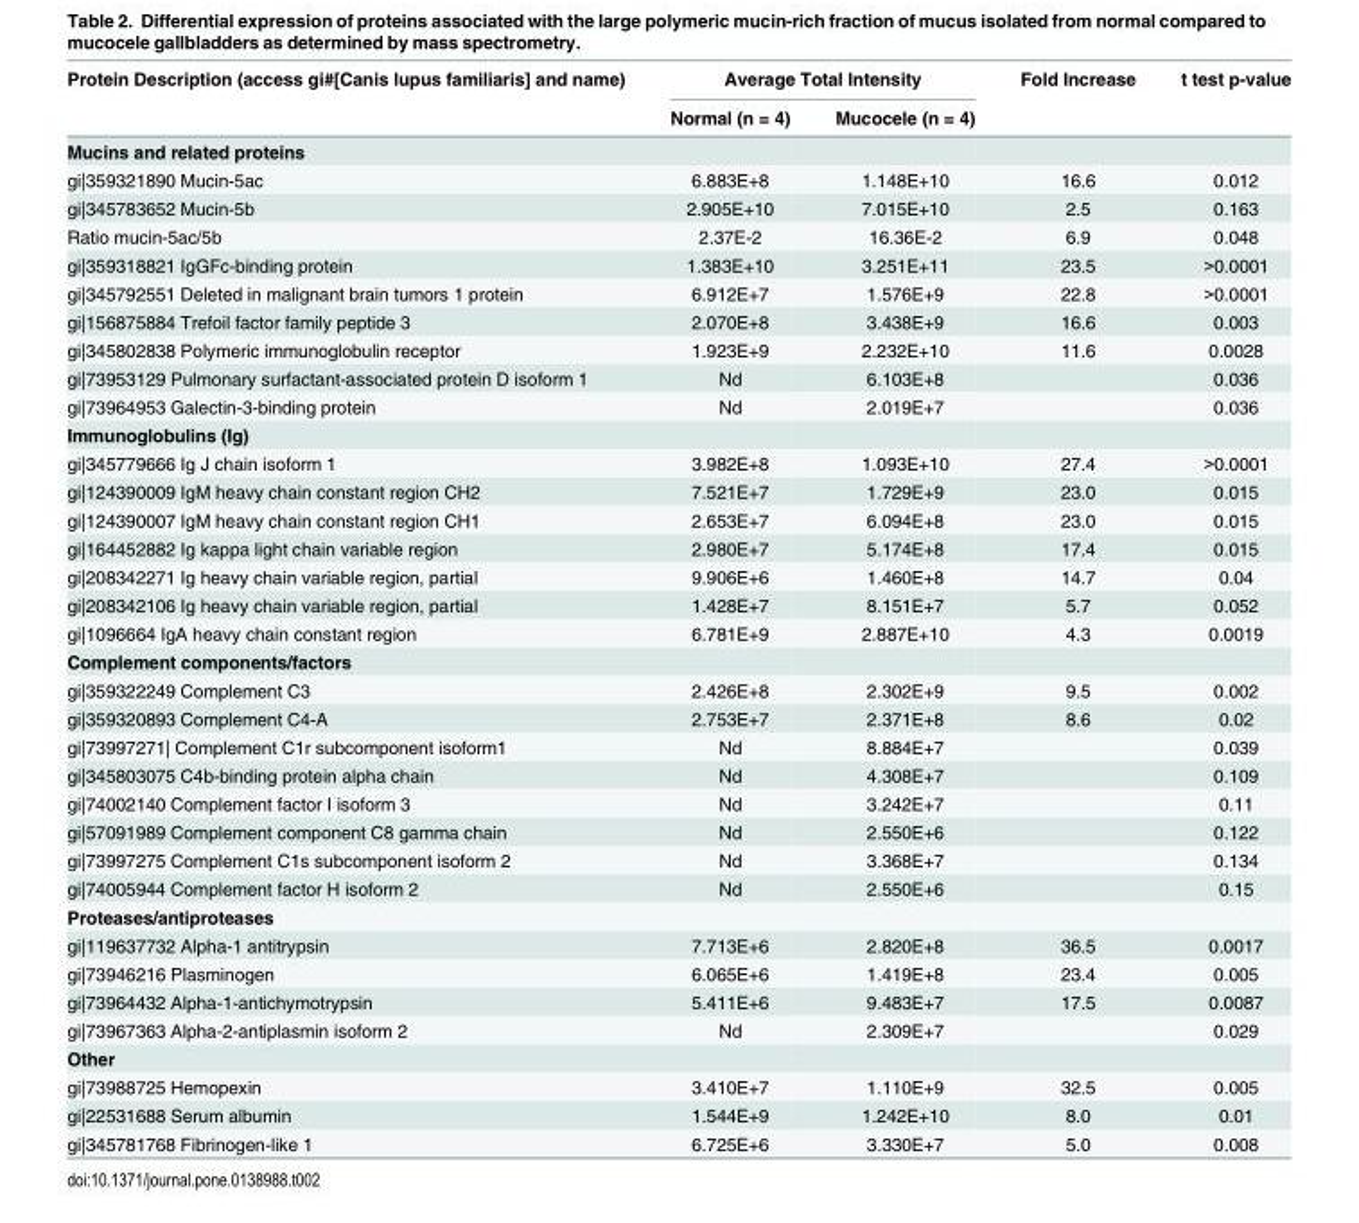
<table><thead><tr><td rowspan="2">Protein Description (access gi#[Canis lupus familiaris] and name)</td><td colspan="2">Average Total Intensity</td><td rowspan="2">Fold Increase</td><td rowspan="2">t test p-value</td></tr><tr><td>Normal (n = 4)</td><td>Mucocele (n = 4)</td></tr></thead><tbody><tr><td colspan="5">Mucins and related proteins</td></tr><tr><td>gi|359321890 Mucin-5ac</td><td>6.883E+8</td><td>1.148E+10</td><td>16.6</td><td>0.012</td></tr><tr><td>gi|345783652 Mucin-5b</td><td>2.905E+10</td><td>7.015E+10</td><td>2.5</td><td>0.163</td></tr><tr><td>Ratio mucin-5ac/5b</td><td>2.37E-2</td><td>16.36E-2</td><td>6.9</td><td>0.048</td></tr><tr><td>gi|359318821 IgGFc-binding protein</td><td>1.383E+10</td><td>3.251E+11</td><td>23.5</td><td>&gt;0.0001</td></tr><tr><td>gi|345792551 Deleted in malignant brain tumors 1 protein</td><td>6.912E+7</td><td>1.576E+9</td><td>22.8</td><td>&gt;0.0001</td></tr><tr><td>gi|156875884 Trefoil factor family peptide 3</td><td>2.070E+8</td><td>3.438E+9</td><td>16.6</td><td>0.003</td></tr><tr><td>gi|345802838 Polymeric immunoglobulin receptor</td><td>1.923E+9</td><td>2.232E+10</td><td>11.6</td><td>0.0028</td></tr><tr><td>gi|73953129 Pulmonary surfactant-associated protein D isoform 1</td><td>Nd</td><td>6.103E+8</td><td></td><td>0.036</td></tr><tr><td>gi|73964953 Galectin-3-binding protein</td><td>Nd</td><td>2.019E+7</td><td></td><td>0.036</td></tr><tr><td colspan="5">Immunoglobulins (Ig)</td></tr><tr><td>gi|345779666 Ig J chain isoform 1</td><td>3.982E+8</td><td>1.093E+10</td><td>27.4</td><td>&gt;0.0001</td></tr><tr><td>gi|124390009 IgM heavy chain constant region CH2</td><td>7.521E+7</td><td>1.729E+9</td><td>23.0</td><td>0.015</td></tr><tr><td>gi|124390007 IgM heavy chain constant region CH1</td><td>2.653E+7</td><td>6.094E+8</td><td>23.0</td><td>0.015</td></tr><tr><td>gi|164452882 Ig kappa light chain variable region</td><td>2.980E+7</td><td>5.174E+8</td><td>17.4</td><td>0.015</td></tr><tr><td>gi|208342271 Ig heavy chain variable region, partial</td><td>9.906E+6</td><td>1.460E+8</td><td>14.7</td><td>0.04</td></tr><tr><td>gi|208342106 Ig heavy chain variable region, partial</td><td>1.428E+7</td><td>8.151E+7</td><td>5.7</td><td>0.052</td></tr><tr><td>gi|1096664 IgA heavy chain constant region</td><td>6.781E+9</td><td>2.887E+10</td><td>4.3</td><td>0.0019</td></tr><tr><td colspan="5">Complement components/factors</td></tr><tr><td>gi|359322249 Complement C3</td><td>2.426E+8</td><td>2.302E+9</td><td>9.5</td><td>0.002</td></tr><tr><td>gi|359320893 Complement C4-A</td><td>2.753E+7</td><td>2.371E+8</td><td>8.6</td><td>0.02</td></tr><tr><td>gi|73997271| Complement C1r subcomponent isoform1</td><td>Nd</td><td>8.884E+7</td><td></td><td>0.039</td></tr><tr><td>gi|345803075 C4b-binding protein alpha chain</td><td>Nd</td><td>4.308E+7</td><td></td><td>0.109</td></tr><tr><td>gi|74002140 Complement factor I isoform 3</td><td>Nd</td><td>3.242E+7</td><td></td><td>0.11</td></tr><tr><td>gi|57091989 Complement component C8 gamma chain</td><td>Nd</td><td>2.550E+6</td><td></td><td>0.122</td></tr><tr><td>gi|73997275 Complement C1s subcomponent isoform 2</td><td>Nd</td><td>3.368E+7</td><td></td><td>0.134</td></tr><tr><td>gi|74005944 Complement factor H isoform 2</td><td>Nd</td><td>2.550E+6</td><td></td><td>0.15</td></tr><tr><td colspan="5">Proteases/antiproteases</td></tr><tr><td>gi|119637732 Alpha-1 antitrypsin</td><td>7.713E+6</td><td>2.820E+8</td><td>36.5</td><td>0.0017</td></tr><tr><td>gi|73946216 Plasminogen</td><td>6.065E+6</td><td>1.419E+8</td><td>23.4</td><td>0.005</td></tr><tr><td>gi|73964432 Alpha-1-antichymotrypsin</td><td>5.411E+6</td><td>9.483E+7</td><td>17.5</td><td>0.0087</td></tr><tr><td>gi|73967363 Alpha-2-antiplasmin isoform 2</td><td>Nd</td><td>2.309E+7</td><td></td><td>0.029</td></tr><tr><td colspan="5">Other</td></tr><tr><td>gi|73988725 Hemopexin</td><td>3.410E+7</td><td>1.110E+9</td><td>32.5</td><td>0.005</td></tr><tr><td>gi|22531688 Serum albumin</td><td>1.544E+9</td><td>1.242E+10</td><td>8.0</td><td>0.01</td></tr><tr><td>gi|345781768 Fibrinogen-like 1</td><td>6.725E+6</td><td>3.330E+7</td><td>5.0</td><td>0.008</td></tr></tbody></table>